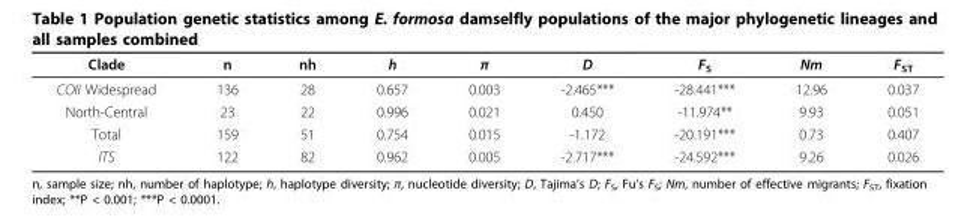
<table><thead><tr><td>Clade</td><td>n</td><td>nh</td><td>h</td><td>π</td><td>D</td><td>F<sub>S</sub></td><td>Nm</td><td>F<sub>ST</sub></td></tr></thead><tbody><tr><td>COII Widespread</td><td>136</td><td>28</td><td>0.657</td><td>0.003</td><td>-2.465***</td><td>-28.441***</td><td>12.96</td><td>0.037</td></tr><tr><td>North-Central</td><td>23</td><td>22</td><td>0.996</td><td>0.021</td><td>0.450</td><td>-11.974**</td><td>9.93</td><td>0.051</td></tr><tr><td>Total</td><td>159</td><td>51</td><td>0.754</td><td>0.015</td><td>-1.172</td><td>-20.191***</td><td>0.73</td><td>0.407</td></tr><tr><td>ITS</td><td>122</td><td>82</td><td>0.962</td><td>0.005</td><td>-2.717***</td><td>-24.592***</td><td>9.26</td><td>0.026</td></tr></tbody></table>